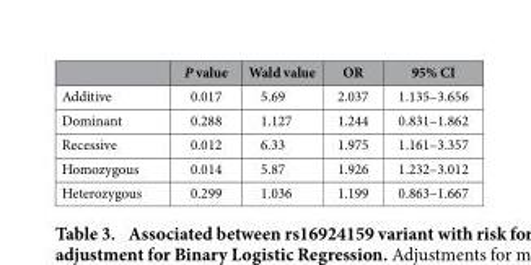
<table><thead><tr><td></td><td>P value</td><td>Wald value</td><td>OR</td><td>95% CI</td></tr></thead><tbody><tr><td>Additive</td><td>0.017</td><td>5.69</td><td>2.037</td><td>1.135–3.656</td></tr><tr><td>Dominant</td><td>0.288</td><td>1.127</td><td>1.244</td><td>0.831–1.862</td></tr><tr><td>Recessive</td><td>0.012</td><td>6.33</td><td>1.975</td><td>1.161–3.357</td></tr><tr><td>Homozygous</td><td>0.014</td><td>5.87</td><td>1.926</td><td>1.232–3.012</td></tr><tr><td>Heterozygous</td><td>0.299</td><td>1.036</td><td>1.199</td><td>0.863–1.667</td></tr></tbody></table>